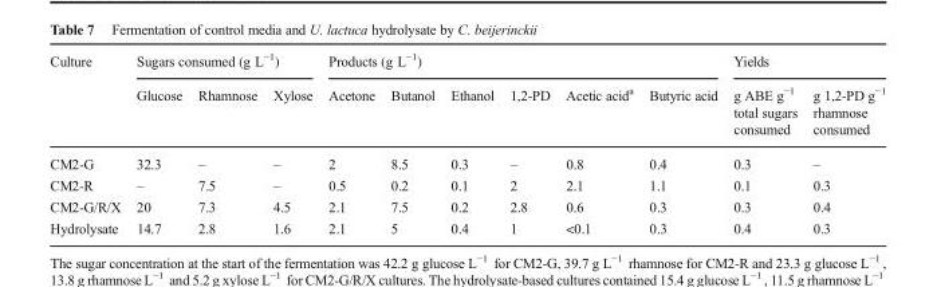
<table><thead><tr><td rowspan="2">Culture</td><td colspan="3">Sugars consumed (g L<sup>−1</sup>)</td><td colspan="6">Products (g L<sup>−1</sup>)</td><td colspan="2">Yields</td></tr><tr><td>Glucose</td><td>Rhamnose</td><td>Xylose</td><td>Acetone</td><td>Butanol</td><td>Ethanol</td><td>1,2-PD</td><td>Acetic acid<sup>a</sup></td><td>Butyric acid</td><td>g ABE g<sup>−1</sup> total sugars consumed</td><td>g 1,2-PD g<sup>−1</sup> rhamnose consumed</td></tr></thead><tbody><tr><td>CM2-G</td><td>32.3</td><td>–</td><td>–</td><td>2</td><td>8.5</td><td>0.3</td><td>–</td><td>0.8</td><td>0.4</td><td>0.3</td><td>–</td></tr><tr><td>CM2-R</td><td>–</td><td>7.5</td><td>–</td><td>0.5</td><td>0.2</td><td>0.1</td><td>2</td><td>2.1</td><td>1.1</td><td>0.1</td><td>0.3</td></tr><tr><td>CM2-G/R/X</td><td>20</td><td>7.3</td><td>4.5</td><td>2.1</td><td>7.5</td><td>0.2</td><td>2.8</td><td>0.6</td><td>0.3</td><td>0.3</td><td>0.4</td></tr><tr><td>Hydrolysate</td><td>14.7</td><td>2.8</td><td>1.6</td><td>2.1</td><td>5</td><td>0.4</td><td>1</td><td>&lt;0.1</td><td>0.3</td><td>0.4</td><td>0.3</td></tr></tbody></table>